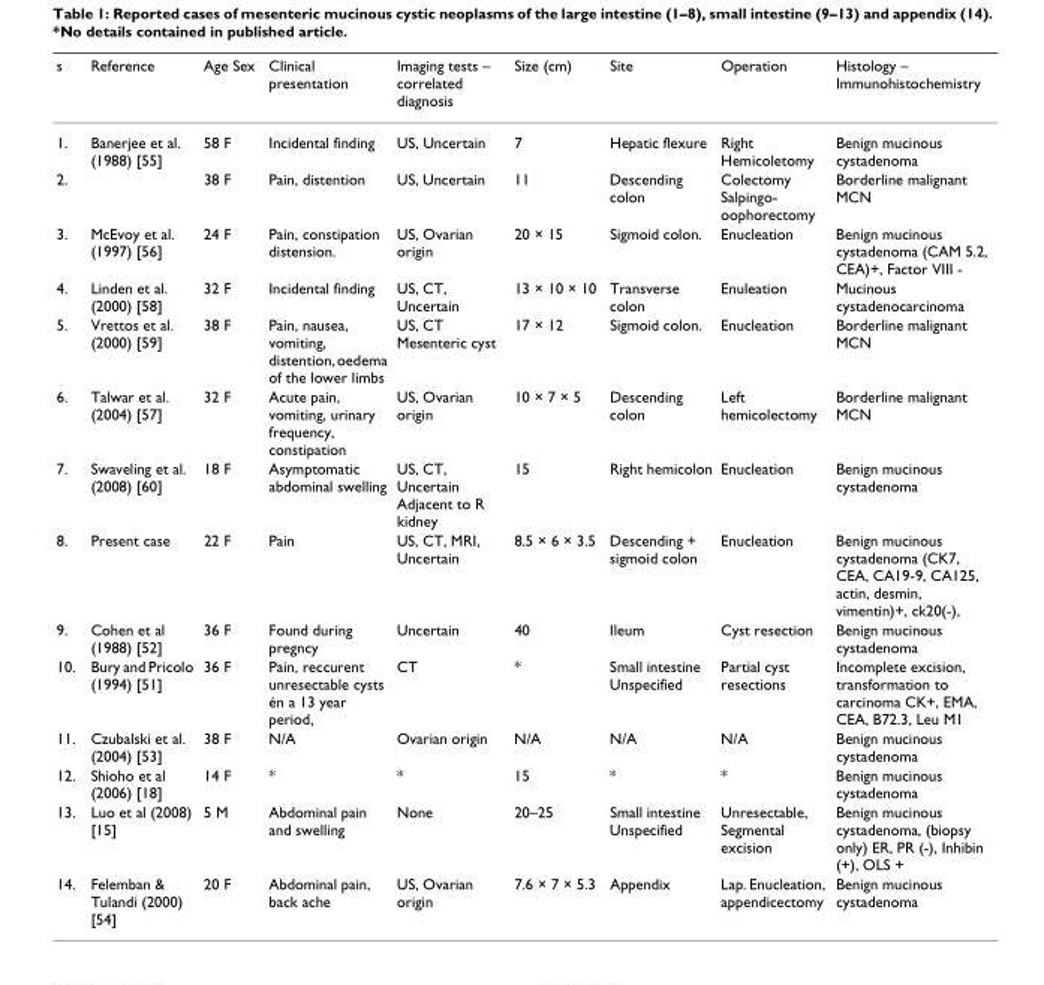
<table><thead><tr><td>s</td><td>Reference</td><td>Age Sex</td><td>Clinical presentation</td><td>Imaging tests – correlated diagnosis</td><td>Size (cm)</td><td>Site</td><td>Operation</td><td>Histology – Immunohistochemistry</td></tr></thead><tbody><tr><td>1.</td><td>Banerjee et al. (1988) [55]</td><td>58 F</td><td>Incidental finding</td><td>US, Uncertain</td><td>7</td><td>Hepatic flexure</td><td>Right Hemicoletomy</td><td>Benign mucinous cystadenoma</td></tr><tr><td>2.</td><td></td><td>38 F</td><td>Pain, distention</td><td>US, Uncertain</td><td>11</td><td>Descending colon</td><td>Colectomy Salpingo- oophorectomy</td><td>Borderline malignant MCN</td></tr><tr><td>3.</td><td>McEvoy et al. (1997) [56]</td><td>24 F</td><td>Pain, constipation distension.</td><td>US, Ovarian origin</td><td>20 × 15</td><td>Sigmoid colon.</td><td>Enucleation</td><td>Benign mucinous cystadenoma (CAM 5.2, CEA)+, Factor VIII -</td></tr><tr><td>4.</td><td>Linden et al. (2000) [58]</td><td>32 F</td><td>Incidental finding</td><td>US, CT, Uncertain</td><td>13 × 10 × 10</td><td>Transverse colon</td><td>Enuleation</td><td>Mucinous cystadenocarcinoma</td></tr><tr><td>5.</td><td>Vrettos et al. (2000) [59]</td><td>38 F</td><td>Pain, nausea, vomiting, distention, oedema of the lower limbs</td><td>US, CT Mesenteric cyst</td><td>17 × 12</td><td>Sigmoid colon.</td><td>Enucleation</td><td>Borderline malignant MCN</td></tr><tr><td>6.</td><td>Talwar et al. (2004) [57]</td><td>32 F</td><td>Acute pain, vomiting, urinary frequency, constipation</td><td>US, Ovarian origin</td><td>10 × 7 × 5</td><td>Descending colon</td><td>Left hemicolectomy</td><td>Borderline malignant MCN</td></tr><tr><td>7.</td><td>Swaveling et al. (2008) [60]</td><td>18 F</td><td>Asymptomatic abdominal swelling</td><td>US, CT, Uncertain Adjacent to R kidney</td><td>15</td><td>Right hemicolon</td><td>Enucleation</td><td>Benign mucinous cystadenoma</td></tr><tr><td>8.</td><td>Present case</td><td>22 F</td><td>Pain</td><td>US, CT, MRI, Uncertain</td><td>8.5 × 6 × 3.5</td><td>Descending + sigmoid colon</td><td>Enucleation</td><td>Benign mucinous cystadenoma (CK7, CEA, CA19-9, CA125, actin, desmin, vimentin)+, ck20(-),</td></tr><tr><td>9.</td><td>Cohen et al (1988) [52]</td><td>36 F</td><td>Found during pregncy</td><td>Uncertain</td><td>40</td><td>Ileum</td><td>Cyst resection</td><td>Benign mucinous cystadenoma</td></tr><tr><td>10.</td><td>Bury and Pricolo (1994) [51]</td><td>36 F</td><td>Pain, reccurent unresectable cysts én a 13 year period,</td><td>CT</td><td>*</td><td>Small intestine Unspecified</td><td>Partial cyst resections</td><td>Incomplete excision, transformation to carcinoma CK+, EMA, CEA, B72.3, Leu M1</td></tr><tr><td>11.</td><td>Czubalski et al. (2004) [53]</td><td>38 F</td><td>N/A</td><td>Ovarian origin</td><td>N/A</td><td>N/A</td><td>N/A</td><td>Benign mucinous cystadenoma</td></tr><tr><td>12.</td><td>Shioho et al (2006) [18]</td><td>14 F</td><td>*</td><td>*</td><td>15</td><td>*</td><td>*</td><td>Benign mucinous cystadenoma</td></tr><tr><td>13.</td><td>Luo et al (2008) [15]</td><td>5 M</td><td>Abdominal pain and swelling</td><td>None</td><td>20–25</td><td>Small intestine Unspecified</td><td>Unresectable, Segmental excision</td><td>Benign mucinous cystadenoma, (biopsy only) ER, PR (-), Inhibin (+), OLS +</td></tr><tr><td>14.</td><td>Felemban &amp; Tulandi (2000) [54]</td><td>20 F</td><td>Abdominal pain, back ache</td><td>US, Ovarian origin</td><td>7.6 × 7 × 5.3</td><td>Appendix</td><td>Lap. Enucleation, appendicectomy</td><td>Benign mucinous cystadenoma</td></tr></tbody></table>